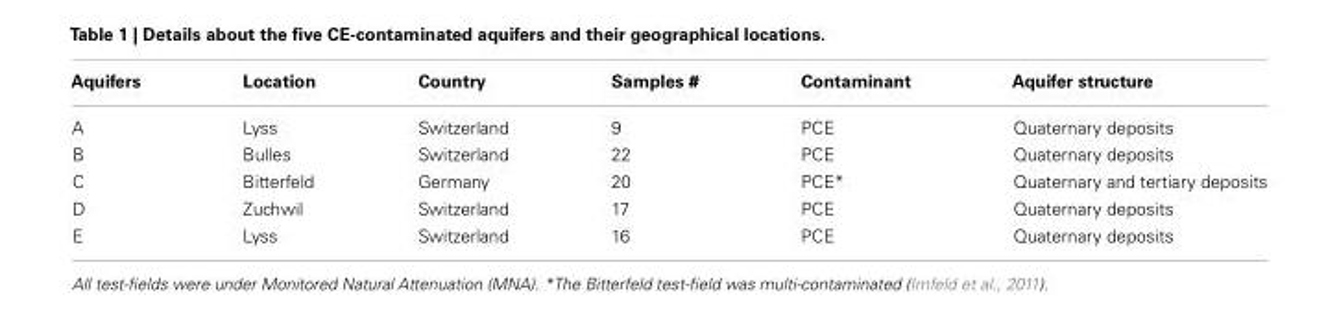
<table><thead><tr><td>Aquifers</td><td>Location</td><td>Country</td><td>Samples #</td><td>Contaminant</td><td>Aquifer structure</td></tr></thead><tbody><tr><td>A</td><td>Lyss</td><td>Switzerland</td><td>9</td><td>PCE</td><td>Quaternary deposits</td></tr><tr><td>B</td><td>Bulles</td><td>Switzerland</td><td>22</td><td>PCE</td><td>Quaternary deposits</td></tr><tr><td>C</td><td>Bitterfeld</td><td>Germany</td><td>20</td><td>PCE*</td><td>Quaternary and tertiary deposits</td></tr><tr><td>D</td><td>Zuchwil</td><td>Switzerland</td><td>17</td><td>PCE</td><td>Quaternary deposits</td></tr><tr><td>E</td><td>Lyss</td><td>Switzerland</td><td>16</td><td>PCE</td><td>Quaternary deposits</td></tr></tbody></table>